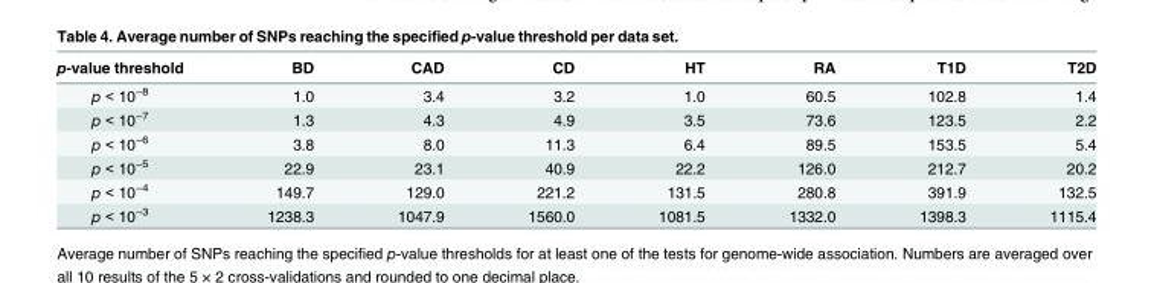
<table><thead><tr><td>p-value threshold</td><td>BD</td><td>CAD</td><td>CD</td><td>HT</td><td>RA</td><td>T1D</td><td>T2D</td></tr></thead><tbody><tr><td>p &lt; 10<sup>−8</sup></td><td>1.0</td><td>3.4</td><td>3.2</td><td>1.0</td><td>60.5</td><td>102.8</td><td>1.4</td></tr><tr><td>p &lt; 10<sup>−7</sup></td><td>1.3</td><td>4.3</td><td>4.9</td><td>3.5</td><td>73.6</td><td>123.5</td><td>2.2</td></tr><tr><td>p &lt; 10<sup>−6</sup></td><td>3.8</td><td>8.0</td><td>11.3</td><td>6.4</td><td>89.5</td><td>153.5</td><td>5.4</td></tr><tr><td>p &lt; 10<sup>−5</sup></td><td>22.9</td><td>23.1</td><td>40.9</td><td>22.2</td><td>126.0</td><td>212.7</td><td>20.2</td></tr><tr><td>p &lt; 10<sup>−4</sup></td><td>149.7</td><td>129.0</td><td>221.2</td><td>131.5</td><td>280.8</td><td>391.9</td><td>132.5</td></tr><tr><td>p &lt; 10<sup>−3</sup></td><td>1238.3</td><td>1047.9</td><td>1560.0</td><td>1081.5</td><td>1332.0</td><td>1398.3</td><td>1115.4</td></tr></tbody></table>